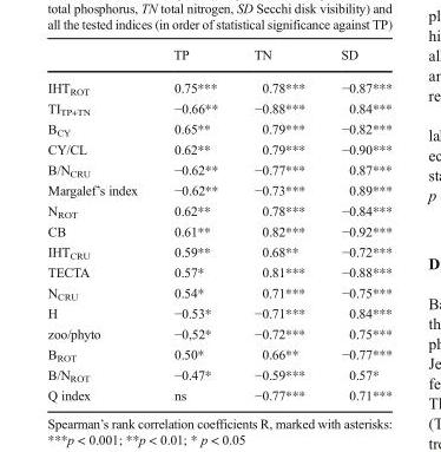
<table><thead><tr><td></td><td>TP</td><td>TN</td><td>SD</td></tr></thead><tbody><tr><td>IHT<sub>ROT</sub></td><td>0.75***</td><td>0.78***</td><td>−0.87***</td></tr><tr><td>TI<sub>TP+TN</sub></td><td>−0.66**</td><td>−0.88***</td><td>0.84***</td></tr><tr><td>B<sub>CY</sub></td><td>0.65**</td><td>0.79***</td><td>−0.82***</td></tr><tr><td>CY/CL</td><td>0.62**</td><td>0.79***</td><td>−0.90***</td></tr><tr><td>B/N<sub>CRU</sub></td><td>−0.62**</td><td>−0.77***</td><td>0.87***</td></tr><tr><td>Margalef’s index</td><td>−0.62**</td><td>−0.73***</td><td>0.89***</td></tr><tr><td>N<sub>ROT</sub></td><td>0.62**</td><td>0.78***</td><td>−0.84***</td></tr><tr><td>CB</td><td>0.61**</td><td>0.82***</td><td>−0.92***</td></tr><tr><td>IHT<sub>CRU</sub></td><td>0.59**</td><td>0.68**</td><td>−0.72***</td></tr><tr><td>TECTA</td><td>0.57*</td><td>0.81***</td><td>−0.88***</td></tr><tr><td>N<sub>CRU</sub></td><td>0.54*</td><td>0.71***</td><td>−0.75***</td></tr><tr><td>H</td><td>−0.53*</td><td>−0.71***</td><td>0.84***</td></tr><tr><td>zoo/phyto</td><td>−0,52*</td><td>−0.72***</td><td>0.75***</td></tr><tr><td>B<sub>ROT</sub></td><td>0.50*</td><td>0.66**</td><td>−0.77***</td></tr><tr><td>B/N<sub>ROT</sub></td><td>−0.47*</td><td>−0.59***</td><td>0.57*</td></tr><tr><td>Q index</td><td>ns</td><td>−0.77***</td><td>0.71***</td></tr></tbody></table>